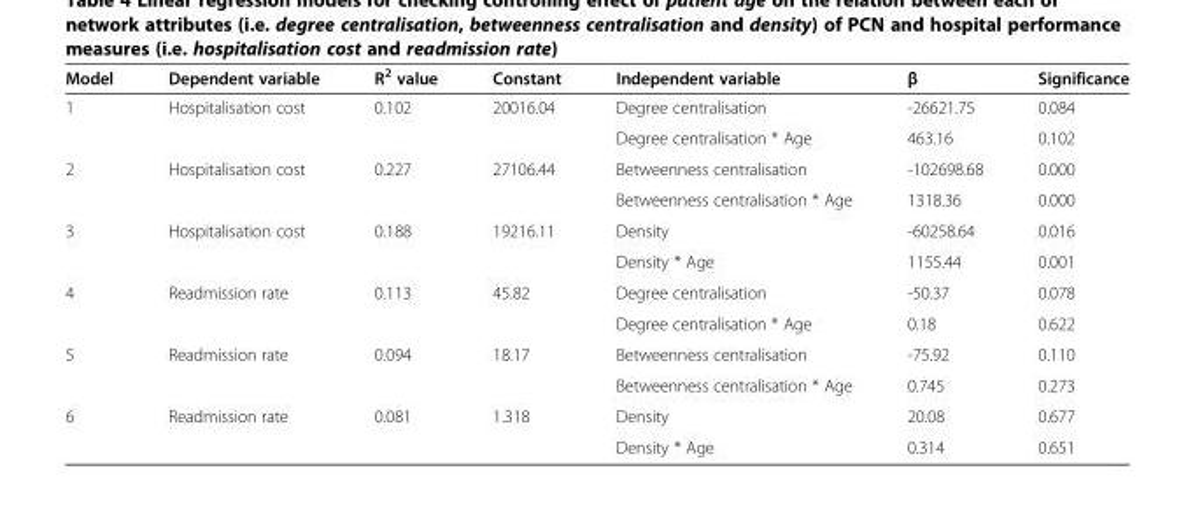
<table><thead><tr><td>Model</td><td>Dependent variable</td><td>R<sup>2</sup> value</td><td>Constant</td><td>Independent variable</td><td>β</td><td>Significance</td></tr></thead><tbody><tr><td rowspan="2">1</td><td rowspan="2">Hospitalisation cost</td><td rowspan="2">0.102</td><td rowspan="2">20016.04</td><td>Degree centralisation</td><td>-26621.75</td><td>0.084</td></tr><tr><td>Degree centralisation * Age</td><td>463.16</td><td>0.102</td></tr><tr><td rowspan="2">2</td><td rowspan="2">Hospitalisation cost</td><td rowspan="2">0.227</td><td rowspan="2">27106.44</td><td>Betweenness centralisation</td><td>-102698.68</td><td>0.000</td></tr><tr><td>Betweenness centralisation * Age</td><td>1318.36</td><td>0.000</td></tr><tr><td rowspan="2">3</td><td rowspan="2">Hospitalisation cost</td><td rowspan="2">0.188</td><td rowspan="2">19216.11</td><td>Density</td><td>-60258.64</td><td>0.016</td></tr><tr><td>Density * Age</td><td>1155.44</td><td>0.001</td></tr><tr><td rowspan="2">4</td><td rowspan="2">Readmission rate</td><td rowspan="2">0.113</td><td rowspan="2">45.82</td><td>Degree centralisation</td><td>-50.37</td><td>0.078</td></tr><tr><td>Degree centralisation * Age</td><td>0.18</td><td>0.622</td></tr><tr><td rowspan="2">5</td><td rowspan="2">Readmission rate</td><td rowspan="2">0.094</td><td rowspan="2">18.17</td><td>Betweenness centralisation</td><td>-75.92</td><td>0.110</td></tr><tr><td>Betweenness centralisation * Age</td><td>0.745</td><td>0.273</td></tr><tr><td rowspan="2">6</td><td>Readmission rate</td><td>0.081</td><td>1.318</td><td>Density</td><td>20.08</td><td>0.677</td></tr><tr><td></td><td></td><td></td><td>Density * Age</td><td>0.314</td><td>0.651</td></tr></tbody></table>